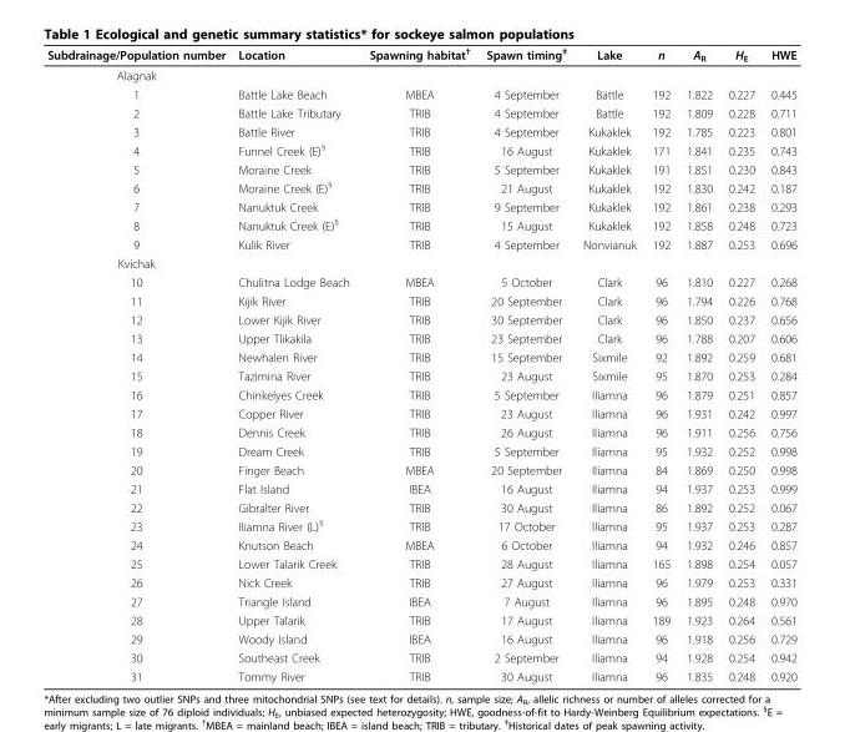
<table><thead><tr><td>Subdrainage/Population number</td><td>Location</td><td>Spawning habitat<sup>†</sup></td><td>Spawn timing<sup>‡</sup></td><td>Lake</td><td>n</td><td>A<sub>R</sub></td><td>H<sub>E</sub></td><td>HWE</td></tr></thead><tbody><tr><td colspan="9">Alagnak</td></tr><tr><td>1</td><td>Battle Lake Beach</td><td>MBEA</td><td>4 September</td><td>Battle</td><td>192</td><td>1.822</td><td>0.227</td><td>0.445</td></tr><tr><td>2</td><td>Battle Lake Tributary</td><td>TRIB</td><td>4 September</td><td>Battle</td><td>192</td><td>1.809</td><td>0.228</td><td>0.711</td></tr><tr><td>3</td><td>Battle River</td><td>TRIB</td><td>4 September</td><td>Kukaklek</td><td>192</td><td>1.785</td><td>0.223</td><td>0.801</td></tr><tr><td>4</td><td>Funnel Creek (E)<sup>§</sup></td><td>TRIB</td><td>16 August</td><td>Kukaklek</td><td>171</td><td>1.841</td><td>0.235</td><td>0.743</td></tr><tr><td>5</td><td>Moraine Creek</td><td>TRIB</td><td>5 September</td><td>Kukaklek</td><td>191</td><td>1.851</td><td>0.230</td><td>0.843</td></tr><tr><td>6</td><td>Moraine Creek (E)<sup>§</sup></td><td>TRIB</td><td>21 August</td><td>Kukaklek</td><td>192</td><td>1.830</td><td>0.242</td><td>0.187</td></tr><tr><td>7</td><td>Nanuktuk Creek</td><td>TRIB</td><td>9 September</td><td>Kukaklek</td><td>192</td><td>1.861</td><td>0.238</td><td>0.293</td></tr><tr><td>8</td><td>Nanuktuk Creek (E)<sup>§</sup></td><td>TRIB</td><td>15 August</td><td>Kukaklek</td><td>192</td><td>1.858</td><td>0.248</td><td>0.723</td></tr><tr><td>9</td><td>Kulik River</td><td>TRIB</td><td>4 September</td><td>Nonvianuk</td><td>192</td><td>1.887</td><td>0.253</td><td>0.696</td></tr><tr><td colspan="9">Kvichak</td></tr><tr><td>10</td><td>Chulitna Lodge Beach</td><td>MBEA</td><td>5 October</td><td>Clark</td><td>96</td><td>1.810</td><td>0.227</td><td>0.268</td></tr><tr><td>11</td><td>Kijik River</td><td>TRIB</td><td>20 September</td><td>Clark</td><td>96</td><td>1.794</td><td>0.226</td><td>0.768</td></tr><tr><td>12</td><td>Lower Kijik River</td><td>TRIB</td><td>30 September</td><td>Clark</td><td>96</td><td>1.850</td><td>0.237</td><td>0.656</td></tr><tr><td>13</td><td>Upper Tlikakila</td><td>TRIB</td><td>23 September</td><td>Clark</td><td>96</td><td>1.788</td><td>0.207</td><td>0.606</td></tr><tr><td>14</td><td>Newhalen River</td><td>TRIB</td><td>15 September</td><td>Sixmile</td><td>92</td><td>1.892</td><td>0.259</td><td>0.681</td></tr><tr><td>15</td><td>Tazimina River</td><td>TRIB</td><td>23 August</td><td>Sixmile</td><td>95</td><td>1.870</td><td>0.253</td><td>0.284</td></tr><tr><td>16</td><td>Chinkelyes Creek</td><td>TRIB</td><td>5 September</td><td>Iliamna</td><td>96</td><td>1.879</td><td>0.251</td><td>0.857</td></tr><tr><td>17</td><td>Copper River</td><td>TRIB</td><td>23 August</td><td>Iliamna</td><td>96</td><td>1.931</td><td>0.242</td><td>0.997</td></tr><tr><td>18</td><td>Dennis Creek</td><td>TRIB</td><td>26 August</td><td>Iliamna</td><td>96</td><td>1.911</td><td>0.256</td><td>0.756</td></tr><tr><td>19</td><td>Dream Creek</td><td>TRIB</td><td>5 September</td><td>Iliamna</td><td>95</td><td>1.932</td><td>0.252</td><td>0.998</td></tr><tr><td>20</td><td>Finger Beach</td><td>MBEA</td><td>20 September</td><td>Iliamna</td><td>84</td><td>1.869</td><td>0.250</td><td>0.998</td></tr><tr><td>21</td><td>Flat Island</td><td>IBEA</td><td>16 August</td><td>Iliamna</td><td>94</td><td>1.937</td><td>0.253</td><td>0.999</td></tr><tr><td>22</td><td>Gibralter River</td><td>TRIB</td><td>30 August</td><td>Iliamna</td><td>86</td><td>1.892</td><td>0.252</td><td>0.067</td></tr><tr><td>23</td><td>Iliamna River (L)<sup>§</sup></td><td>TRIB</td><td>17 October</td><td>Iliamna</td><td>95</td><td>1.937</td><td>0.253</td><td>0.287</td></tr><tr><td>24</td><td>Knutson Beach</td><td>MBEA</td><td>6 October</td><td>Iliamna</td><td>94</td><td>1.932</td><td>0.246</td><td>0.857</td></tr><tr><td>25</td><td>Lower Talarik Creek</td><td>TRIB</td><td>28 August</td><td>Iliamna</td><td>165</td><td>1.898</td><td>0.254</td><td>0.057</td></tr><tr><td>26</td><td>Nick Creek</td><td>TRIB</td><td>27 August</td><td>Iliamna</td><td>96</td><td>1.979</td><td>0.253</td><td>0.331</td></tr><tr><td>27</td><td>Triangle Island</td><td>IBEA</td><td>7 August</td><td>Iliamna</td><td>96</td><td>1.895</td><td>0.248</td><td>0.970</td></tr><tr><td>28</td><td>Upper Talarik</td><td>TRIB</td><td>17 August</td><td>Iliamna</td><td>189</td><td>1.923</td><td>0.264</td><td>0.561</td></tr><tr><td>29</td><td>Woody Island</td><td>IBEA</td><td>16 August</td><td>Iliamna</td><td>96</td><td>1.918</td><td>0.256</td><td>0.729</td></tr><tr><td>30</td><td>Southeast Creek</td><td>TRIB</td><td>2 September</td><td>Iliamna</td><td>94</td><td>1.928</td><td>0.254</td><td>0.942</td></tr><tr><td>31</td><td>Tommy River</td><td>TRIB</td><td>30 August</td><td>Iliamna</td><td>96</td><td>1.835</td><td>0.248</td><td>0.920</td></tr></tbody></table>